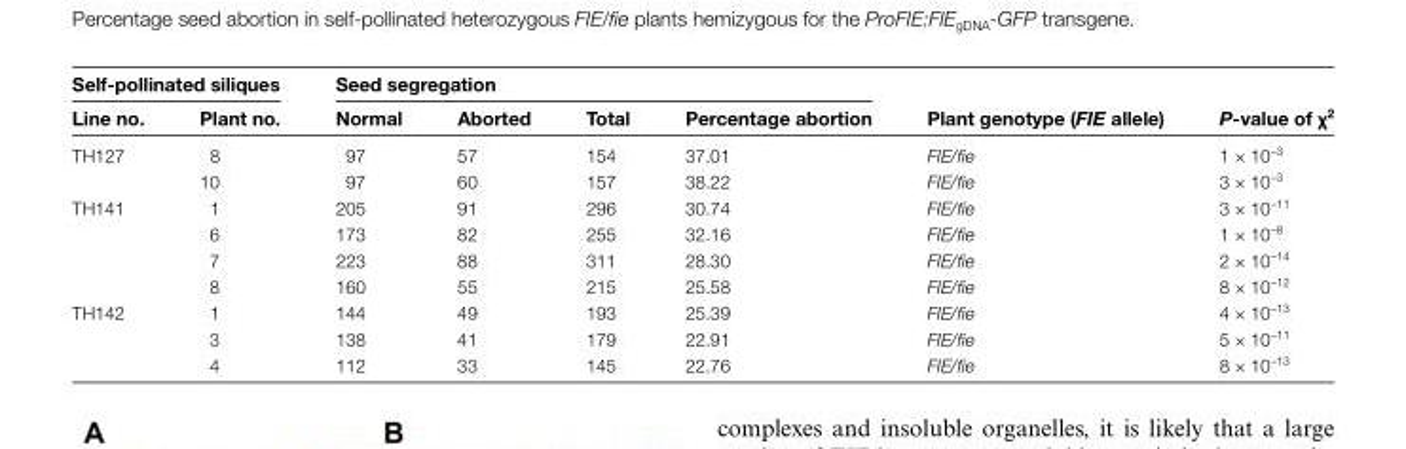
<table><thead><tr><td colspan="2">Self-pollinated siliques</td><td colspan="4">Seed segregation</td><td rowspan="2">Plant genotype (FIE allele)</td><td rowspan="2">P-value of χ<sup>2</sup></td></tr><tr><td>Line no.</td><td>Plant no.</td><td>Normal</td><td>Aborted</td><td>Total</td><td>Percentage abortion</td></tr></thead><tbody><tr><td rowspan="2">TH127</td><td>8</td><td>97</td><td>57</td><td>154</td><td>37.01</td><td>FIE/fie</td><td>1 × 10<sup>–3</sup></td></tr><tr><td>10</td><td>97</td><td>60</td><td>157</td><td>38.22</td><td>FIE/fie</td><td>3 × 10<sup>–3</sup></td></tr><tr><td rowspan="4">TH141</td><td>1</td><td>205</td><td>91</td><td>296</td><td>30.74</td><td>FIE/fie</td><td>3 × 10<sup>–11</sup></td></tr><tr><td>6</td><td>173</td><td>82</td><td>255</td><td>32.16</td><td>FIE/fie</td><td>1 × 10<sup>–8</sup></td></tr><tr><td>7</td><td>223</td><td>88</td><td>311</td><td>28.30</td><td>FIE/fie</td><td>2 × 10<sup>–14</sup></td></tr><tr><td>8</td><td>160</td><td>55</td><td>215</td><td>25.58</td><td>FIE/fie</td><td>8 × 10<sup>–12</sup></td></tr><tr><td rowspan="3">TH142</td><td>1</td><td>144</td><td>49</td><td>193</td><td>25.39</td><td>FIE/fie</td><td>4 × 10<sup>–13</sup></td></tr><tr><td>3</td><td>138</td><td>41</td><td>179</td><td>22.91</td><td>FIE/fie</td><td>5 × 10<sup>–11</sup></td></tr><tr><td>4</td><td>112</td><td>33</td><td>145</td><td>22.76</td><td>FIE/fie</td><td>8 × 10<sup>–13</sup></td></tr></tbody></table>